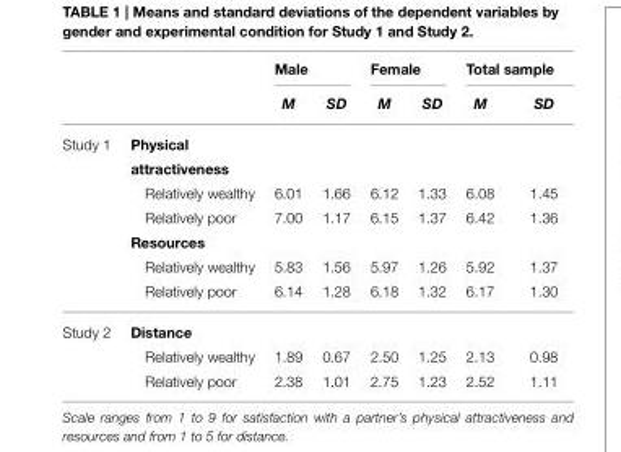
<table><thead><tr><td rowspan="2"></td><td rowspan="2"></td><td colspan="2">Male</td><td colspan="2">Female</td><td colspan="2">Total sample</td></tr><tr><td>M</td><td>SD</td><td>M</td><td>SD</td><td>M</td><td>SD</td></tr></thead><tbody><tr><td rowspan="7">Study 1</td><td>Physical</td><td></td><td></td><td></td><td></td><td></td><td></td></tr><tr><td>attractiveness</td><td></td><td></td><td></td><td></td><td></td><td></td></tr><tr><td>Relatively wealthy</td><td>6.01</td><td>1.66</td><td>6.12</td><td>1.33</td><td>6.08</td><td>1.45</td></tr><tr><td>Relatively poor</td><td>7.00</td><td>1.17</td><td>6.15</td><td>1.37</td><td>6.42</td><td>1.36</td></tr><tr><td>Resources</td><td></td><td></td><td></td><td></td><td></td><td></td></tr><tr><td>Relatively wealthy</td><td>5.83</td><td>1.56</td><td>5.97</td><td>1.26</td><td>5.92</td><td>1.37</td></tr><tr><td>Relatively poor</td><td>6.14</td><td>1.28</td><td>6.18</td><td>1.32</td><td>6.17</td><td>1.30</td></tr><tr><td rowspan="3">Study 2</td><td>Distance</td><td></td><td></td><td></td><td></td><td></td><td></td></tr><tr><td>Relatively wealthy</td><td>1.89</td><td>0.67</td><td>2.50</td><td>1.25</td><td>2.13</td><td>0.98</td></tr><tr><td>Relatively poor</td><td>2.38</td><td>1.01</td><td>2.75</td><td>1.23</td><td>2.52</td><td>1.11</td></tr></tbody></table>